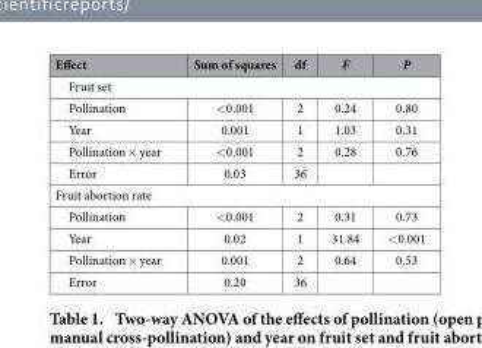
<table><thead><tr><td>Effect</td><td>Sum of squares</td><td>df</td><td>F</td><td>P</td></tr></thead><tbody><tr><td colspan="5">Fruit set</td></tr><tr><td>Pollination</td><td>&lt; 0.001</td><td>2</td><td>0.24</td><td>0.80</td></tr><tr><td>Year</td><td>0.001</td><td>1</td><td>1.03</td><td>0.31</td></tr><tr><td>Pollination × year</td><td>&lt; 0.001</td><td>2</td><td>0.28</td><td>0.76</td></tr><tr><td>Error</td><td>0.03</td><td>36</td><td></td><td></td></tr><tr><td colspan="5">Fruit abortion rate</td></tr><tr><td>Pollination</td><td>&lt; 0.001</td><td>2</td><td>0.31</td><td>0.73</td></tr><tr><td>Year</td><td>0.02</td><td>1</td><td>31.84</td><td>&lt; 0.001</td></tr><tr><td>Pollination × year</td><td>0.001</td><td>2</td><td>0.64</td><td>0.53</td></tr><tr><td>Error</td><td>0.20</td><td>36</td><td></td><td></td></tr></tbody></table>